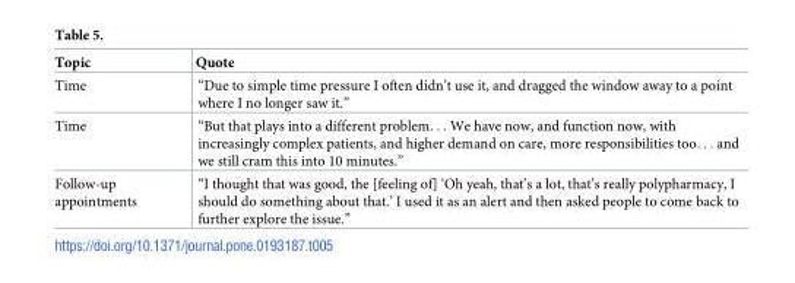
<table><thead><tr><td>Topic</td><td>Quote</td></tr></thead><tbody><tr><td>Time</td><td>“Due to simple time pressure I often didn’t use it, and dragged the window away to a point where I no longer saw it.”</td></tr><tr><td>Time</td><td>“But that plays into a different problem. . . We have now, and function now, with increasingly complex patients, and higher demand on care, more responsibilities too. . . and we still cram this into 10 minutes.”</td></tr><tr><td>Follow-up appointments</td><td>“I thought that was good, the [feeling of] ‘Oh yeah, that’s a lot, that’s really polypharmacy, I should do something about that.’ I used it as an alert and then asked people to come back to further explore the issue.”</td></tr></tbody></table>